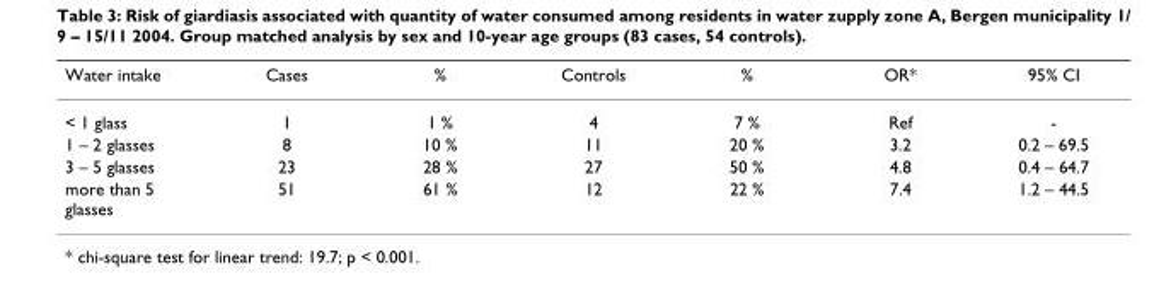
<table><thead><tr><td>Water intake</td><td>Cases</td><td>%</td><td>Controls</td><td>%</td><td>OR*</td><td>95% CI</td></tr></thead><tbody><tr><td>&lt; 1 glass</td><td>1</td><td>1 %</td><td>4</td><td>7 %</td><td>Ref</td><td>-</td></tr><tr><td>1 – 2 glasses</td><td>8</td><td>10 %</td><td>11</td><td>20 %</td><td>3.2</td><td>0.2 – 69.5</td></tr><tr><td>3 – 5 glasses</td><td>23</td><td>28 %</td><td>27</td><td>50 %</td><td>4.8</td><td>0.4 – 64.7</td></tr><tr><td>more than 5 glasses</td><td>51</td><td>61 %</td><td>12</td><td>22 %</td><td>7.4</td><td>1.2 – 44.5</td></tr></tbody></table>